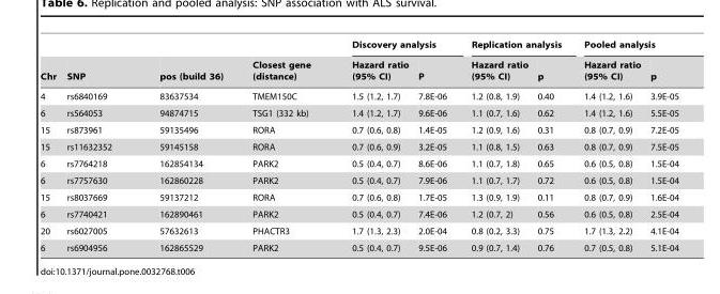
<table><thead><tr><td rowspan="2">Chr</td><td rowspan="2">SNP</td><td rowspan="2">pos (build 36)</td><td rowspan="2">Closest gene (distance)</td><td colspan="2">Discovery analysis</td><td colspan="2">Replication analysis</td><td colspan="2">Pooled analysis</td></tr><tr><td>Hazard ratio (95% CI)</td><td>P</td><td>Hazard ratio (95% CI)</td><td>p</td><td>Hazard ratio (95% CI)</td><td>p</td></tr></thead><tbody><tr><td>4</td><td>rs6840169</td><td>83637534</td><td>TMEM150C</td><td>1.5 (1.2, 1.7)</td><td>7.8E-06</td><td>1.2 (0.8, 1.9)</td><td>0.40</td><td>1.4 (1.2, 1.6)</td><td>3.9E-05</td></tr><tr><td>6</td><td>rs564053</td><td>94874715</td><td>TSG1 (332 kb)</td><td>1.4 (1.2, 1.7)</td><td>9.6E-06</td><td>1.1 (0.7, 1.6)</td><td>0.62</td><td>1.4 (1.2, 1.6)</td><td>5.5E-05</td></tr><tr><td>15</td><td>rs873961</td><td>59135496</td><td>RORA</td><td>0.7 (0.6, 0.8)</td><td>1.4E-05</td><td>1.2 (0.9, 1.6)</td><td>0.31</td><td>0.8 (0.7, 0.9)</td><td>7.2E-05</td></tr><tr><td>15</td><td>rs11632352</td><td>59145158</td><td>RORA</td><td>0.7 (0.6, 0.9)</td><td>3.2E-05</td><td>1.1 (0.8, 1.5)</td><td>0.63</td><td>0.8 (0.7, 0.9)</td><td>7.5E-05</td></tr><tr><td>6</td><td>rs7764218</td><td>162854134</td><td>PARK2</td><td>0.5 (0.4, 0.7)</td><td>8.6E-06</td><td>1.1 (0.7, 1.8)</td><td>0.65</td><td>0.6 (0.5, 0.8)</td><td>1.5E-04</td></tr><tr><td>6</td><td>rs7757630</td><td>162860228</td><td>PARK2</td><td>0.5 (0.4, 0.7)</td><td>7.9E-06</td><td>1.1 (0.7, 1.7)</td><td>0.72</td><td>0.6 (0.5, 0.8)</td><td>1.5E-04</td></tr><tr><td>15</td><td>rs8037669</td><td>59137212</td><td>RORA</td><td>0.7 (0.6, 0.8)</td><td>1.7E-05</td><td>1.3 (0.9, 1.9)</td><td>0.11</td><td>0.8 (0.7, 0.9)</td><td>1.6E-04</td></tr><tr><td>6</td><td>rs7740421</td><td>162890461</td><td>PARK2</td><td>0.5 (0.4, 0.7)</td><td>7.4E-06</td><td>1.2 (0.7, 2)</td><td>0.56</td><td>0.6 (0.5, 0.8)</td><td>2.5E-04</td></tr><tr><td>20</td><td>rs6027005</td><td>57632613</td><td>PHACTR3</td><td>1.7 (1.3, 2.3)</td><td>2.0E-04</td><td>0.8 (0.2, 3.3)</td><td>0.75</td><td>1.7 (1.3, 2.2)</td><td>4.1E-04</td></tr><tr><td>6</td><td>rs6904956</td><td>162865529</td><td>PARK2</td><td>0.5 (0.4, 0.7)</td><td>9.5E-06</td><td>0.9 (0.7, 1.4)</td><td>0.76</td><td>0.7 (0.5, 0.8)</td><td>5.1E-04</td></tr></tbody></table>